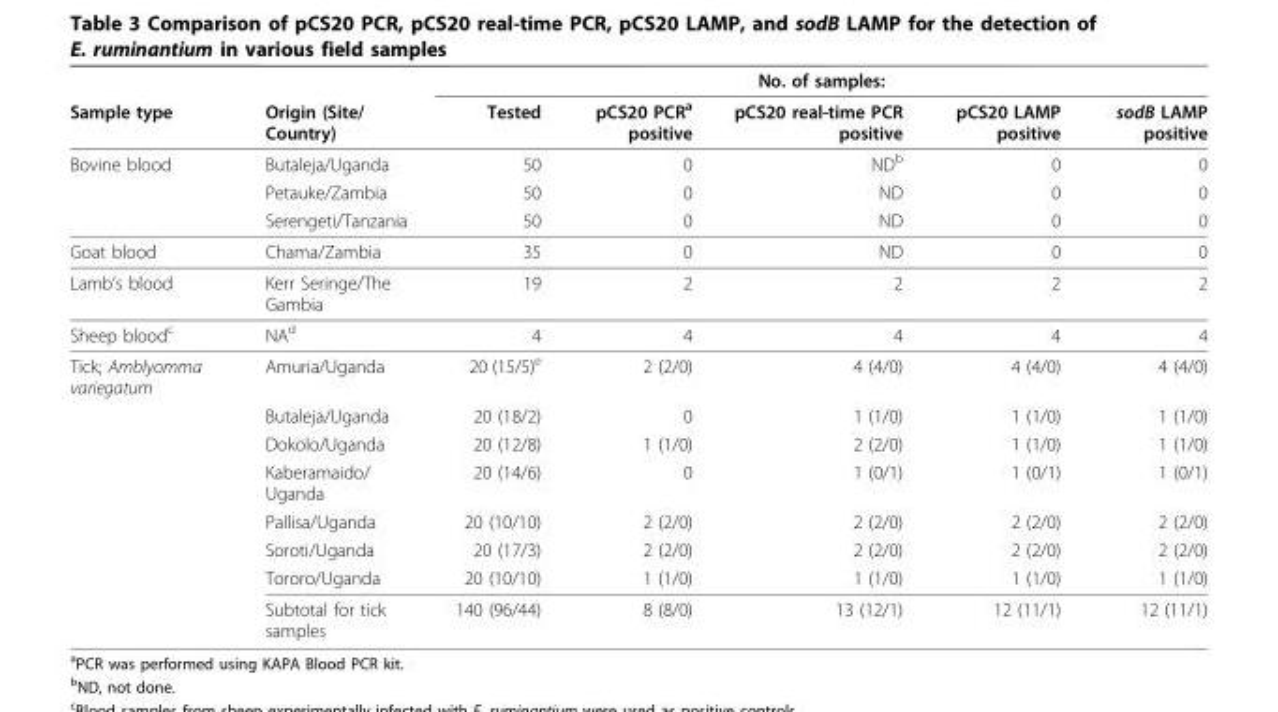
<table><thead><tr><td rowspan="2">Sample type</td><td rowspan="2">Origin (Site/ Country)</td><td colspan="5">No. of samples:</td></tr><tr><td>Tested</td><td>pCS20 PCR<sup>a</sup> positive</td><td>pCS20 real-time PCR positive</td><td>pCS20 LAMP positive</td><td>sodB LAMP positive</td></tr></thead><tbody><tr><td rowspan="3">Bovine blood</td><td>Butaleja/Uganda</td><td>50</td><td>0</td><td>ND<sup>b</sup></td><td>0</td><td>0</td></tr><tr><td>Petauke/Zambia</td><td>50</td><td>0</td><td>ND</td><td>0</td><td>0</td></tr><tr><td>Serengeti/Tanzania</td><td>50</td><td>0</td><td>ND</td><td>0</td><td>0</td></tr><tr><td>Goat blood</td><td>Chama/Zambia</td><td>35</td><td>0</td><td>ND</td><td>0</td><td>0</td></tr><tr><td>Lamb’s blood</td><td>Kerr Seringe/The Gambia</td><td>19</td><td>2</td><td>2</td><td>2</td><td>2</td></tr><tr><td>Sheep blood<sup>c</sup></td><td>NA<sup>d</sup></td><td>4</td><td>4</td><td>4</td><td>4</td><td>4</td></tr><tr><td rowspan="8">Tick; Amblyomma variegatum</td><td>Amuria/Uganda</td><td>20 (15/5)<sup>e</sup></td><td>2 (2/0)</td><td>4 (4/0)</td><td>4 (4/0)</td><td>4 (4/0)</td></tr><tr><td>Butaleja/Uganda</td><td>20 (18/2)</td><td>0</td><td>1 (1/0)</td><td>1 (1/0)</td><td>1 (1/0)</td></tr><tr><td>Dokolo/Uganda</td><td>20 (12/8)</td><td>1 (1/0)</td><td>2 (2/0)</td><td>1 (1/0)</td><td>1 (1/0)</td></tr><tr><td>Kaberamaido/ Uganda</td><td>20 (14/6)</td><td>0</td><td>1 (0/1)</td><td>1 (0/1)</td><td>1 (0/1)</td></tr><tr><td>Pallisa/Uganda</td><td>20 (10/10)</td><td>2 (2/0)</td><td>2 (2/0)</td><td>2 (2/0)</td><td>2 (2/0)</td></tr><tr><td>Soroti/Uganda</td><td>20 (17/3)</td><td>2 (2/0)</td><td>2 (2/0)</td><td>2 (2/0)</td><td>2 (2/0)</td></tr><tr><td>Tororo/Uganda</td><td>20 (10/10)</td><td>1 (1/0)</td><td>1 (1/0)</td><td>1 (1/0)</td><td>1 (1/0)</td></tr><tr><td>Subtotal for tick samples</td><td>140 (96/44)</td><td>8 (8/0)</td><td>13 (12/1)</td><td>12 (11/1)</td><td>12 (11/1)</td></tr></tbody></table>